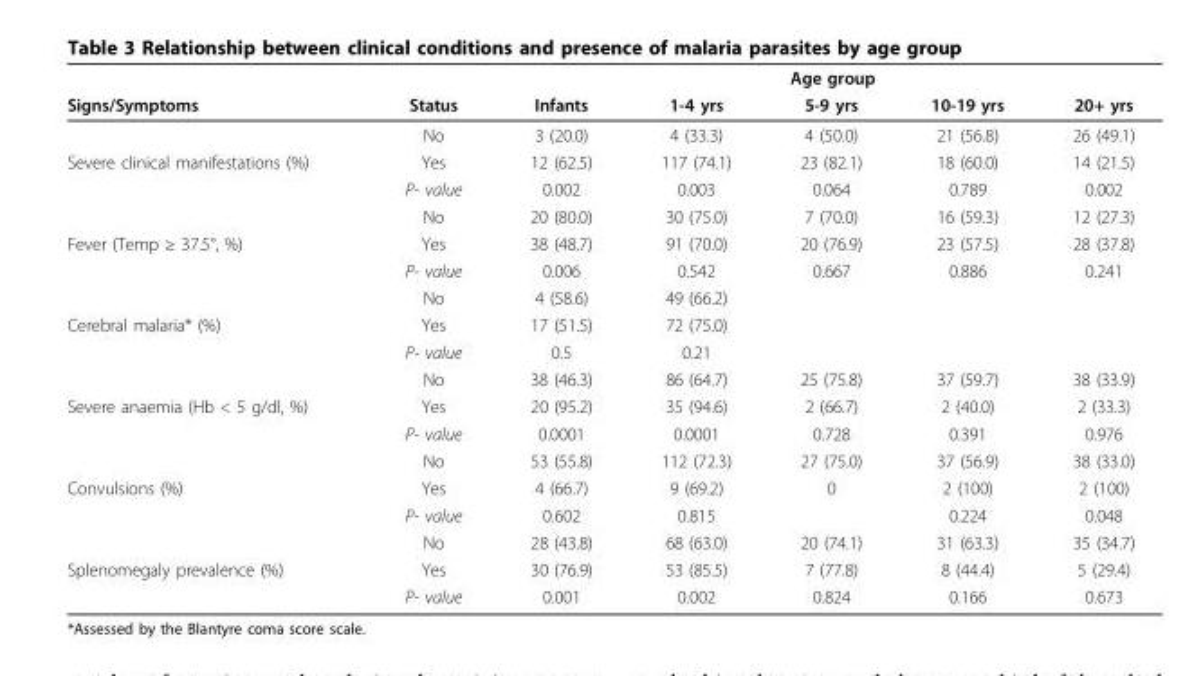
<table><thead><tr><td rowspan="2">Signs/Symptoms</td><td rowspan="2">Status</td><td colspan="5">Age group</td></tr><tr><td>Infants</td><td>1-4 yrs</td><td>5-9 yrs</td><td>10-19 yrs</td><td>20+ yrs</td></tr></thead><tbody><tr><td></td><td>No</td><td>3 (20.0)</td><td>4 (33.3)</td><td>4 (50.0)</td><td>21 (56.8)</td><td>26 (49.1)</td></tr><tr><td rowspan="3">Severe clinical manifestations (%)</td><td>Yes</td><td>12 (62.5)</td><td>117 (74.1)</td><td>23 (82.1)</td><td>18 (60.0)</td><td>14 (21.5)</td></tr><tr><td>P- value</td><td>0.002</td><td>0.003</td><td>0.064</td><td>0.789</td><td>0.002</td></tr><tr><td>No</td><td>20 (80.0)</td><td>30 (75.0)</td><td>7 (70.0)</td><td>16 (59.3)</td><td>12 (27.3)</td></tr><tr><td rowspan="3">Fever (Temp ≥ 37.5°, %)</td><td>Yes</td><td>38 (48.7)</td><td>91 (70.0)</td><td>20 (76.9)</td><td>23 (57.5)</td><td>28 (37.8)</td></tr><tr><td>P- value</td><td>0.006</td><td>0.542</td><td>0.667</td><td>0.886</td><td>0.241</td></tr><tr><td>No</td><td>4 (58.6)</td><td>49 (66.2)</td><td></td><td></td><td></td></tr><tr><td rowspan="3">Cerebral malaria* (%)</td><td>Yes</td><td>17 (51.5)</td><td>72 (75.0)</td><td></td><td></td><td></td></tr><tr><td>P- value</td><td>0.5</td><td>0.21</td><td></td><td></td><td></td></tr><tr><td>No</td><td>38 (46.3)</td><td>86 (64.7)</td><td>25 (75.8)</td><td>37 (59.7)</td><td>38 (33.9)</td></tr><tr><td rowspan="3">Severe anaemia (Hb &lt; 5 g/dl, %)</td><td>Yes</td><td>20 (95.2)</td><td>35 (94.6)</td><td>2 (66.7)</td><td>2 (40.0)</td><td>2 (33.3)</td></tr><tr><td>P- value</td><td>0.0001</td><td>0.0001</td><td>0.728</td><td>0.391</td><td>0.976</td></tr><tr><td>No</td><td>53 (55.8)</td><td>112 (72.3)</td><td>27 (75.0)</td><td>37 (56.9)</td><td>38 (33.0)</td></tr><tr><td rowspan="3">Convulsions (%)</td><td>Yes</td><td>4 (66.7)</td><td>9 (69.2)</td><td>0</td><td>2 (100)</td><td>2 (100)</td></tr><tr><td>P- value</td><td>0.602</td><td>0.815</td><td></td><td>0.224</td><td>0.048</td></tr><tr><td>No</td><td>28 (43.8)</td><td>68 (63.0)</td><td>20 (74.1)</td><td>31 (63.3)</td><td>35 (34.7)</td></tr><tr><td rowspan="2">Splenomegaly prevalence (%)</td><td>Yes</td><td>30 (76.9)</td><td>53 (85.5)</td><td>7 (77.8)</td><td>8 (44.4)</td><td>5 (29.4)</td></tr><tr><td>P- value</td><td>0.001</td><td>0.002</td><td>0.824</td><td>0.166</td><td>0.673</td></tr></tbody></table>